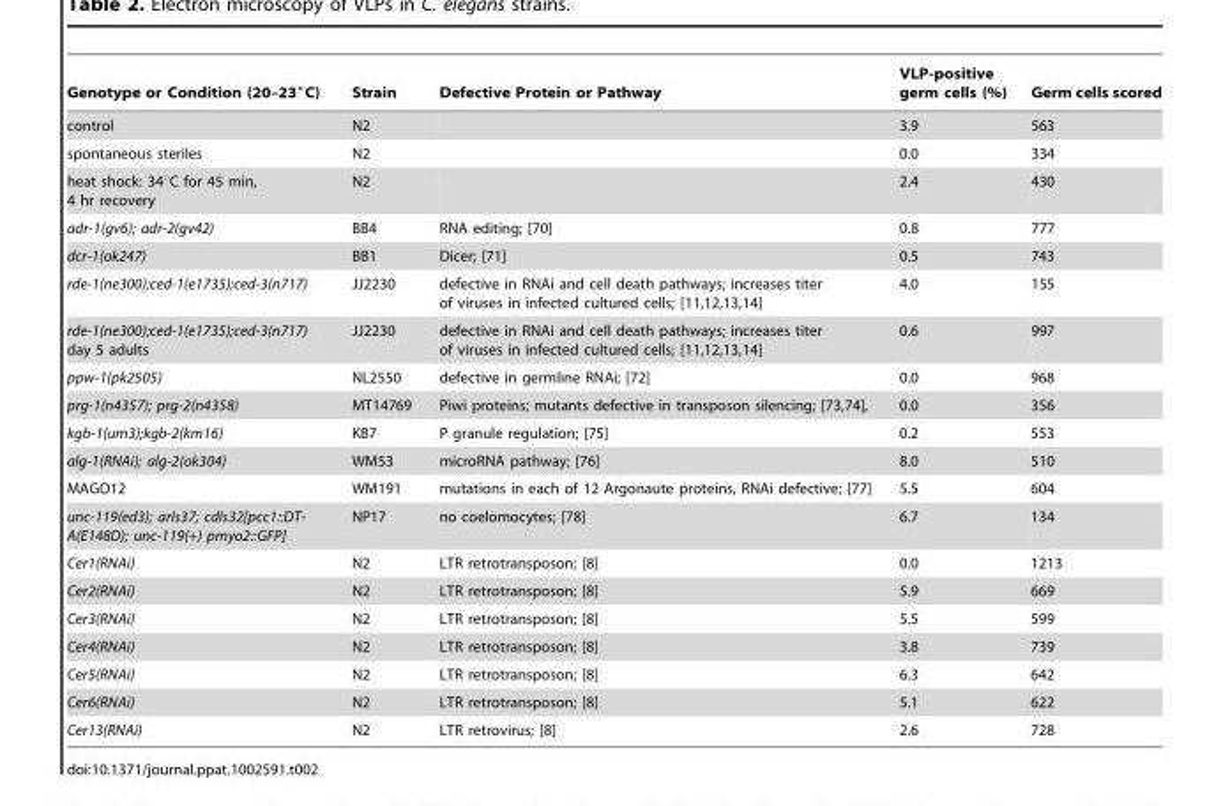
<table><thead><tr><td>Genotype or Condition (20–23°C)</td><td>Strain</td><td>Defective Protein or Pathway</td><td>VLP-positive germ cells (%)</td><td>Germ cells scored</td></tr></thead><tbody><tr><td>control</td><td>N2</td><td></td><td>3.9</td><td>563</td></tr><tr><td>spontaneous steriles</td><td>N2</td><td></td><td>0.0</td><td>334</td></tr><tr><td>heat shock: 34°C for 45 min, 4 hr recovery</td><td>N2</td><td></td><td>2.4</td><td>430</td></tr><tr><td>adr-1(gv6); adr-2(gv42)</td><td>BB4</td><td>RNA editing; [70]</td><td>0.8</td><td>777</td></tr><tr><td>dcr-1(ok247)</td><td>BB1</td><td>Dicer; [71]</td><td>0.5</td><td>743</td></tr><tr><td>rde-1(ne300);ced-1(e1735);ced-3(n717)</td><td>JJ2230</td><td>defective in RNAi and cell death pathways; increases titer of viruses in infected cultured cells; [11,12,13,14]</td><td>4.0</td><td>155</td></tr><tr><td>rde-1(ne300);ced-1(e1735);ced-3(n717) day 5 adults</td><td>JJ2230</td><td>defective in RNAi and cell death pathways; increases titer of viruses in infected cultured cells; [11,12,13,14]</td><td>0.6</td><td>997</td></tr><tr><td>ppw-1(pk2505)</td><td>NL2550</td><td>defective in germline RNAi; [72]</td><td>0.0</td><td>968</td></tr><tr><td>prg-1(n4357); prg-2(n4358)</td><td>MT14769</td><td>Piwi proteins; mutants defective in transposon silencing; [73,74],</td><td>0.0</td><td>356</td></tr><tr><td>kgb-1(um3);kgb-2(km16)</td><td>KB7</td><td>P granule regulation; [75]</td><td>0.2</td><td>553</td></tr><tr><td>alg-1(RNAi); alg-2(ok304)</td><td>WM53</td><td>microRNA pathway; [76]</td><td>8.0</td><td>510</td></tr><tr><td>MAGO12</td><td>WM191</td><td>mutations in each of 12 Argonaute proteins, RNAi defective; [77]</td><td>5.5</td><td>604</td></tr><tr><td>unc-119(ed3); arIs37; cdIs32[pcc1::DT- A(E148D); unc-119(+) pmyo2::GFP]</td><td>NP17</td><td>no coelomocytes; [78]</td><td>6.7</td><td>134</td></tr><tr><td>Cer1(RNAi)</td><td>N2</td><td>LTR retrotransposon; [8]</td><td>0.0</td><td>1213</td></tr><tr><td>Cer2(RNAi)</td><td>N2</td><td>LTR retrotransposon; [8]</td><td>5.9</td><td>669</td></tr><tr><td>Cer3(RNAi)</td><td>N2</td><td>LTR retrotransposon; [8]</td><td>5.5</td><td>599</td></tr><tr><td>Cer4(RNAi)</td><td>N2</td><td>LTR retrotransposon; [8]</td><td>3.8</td><td>739</td></tr><tr><td>Cer5(RNAi)</td><td>N2</td><td>LTR retrotransposon; [8]</td><td>6.3</td><td>642</td></tr><tr><td>Cer6(RNAi)</td><td>N2</td><td>LTR retrotransposon; [8]</td><td>5.1</td><td>622</td></tr><tr><td>Cer13(RNAi)</td><td>N2</td><td>LTR retrovirus; [8]</td><td>2.6</td><td>728</td></tr></tbody></table>